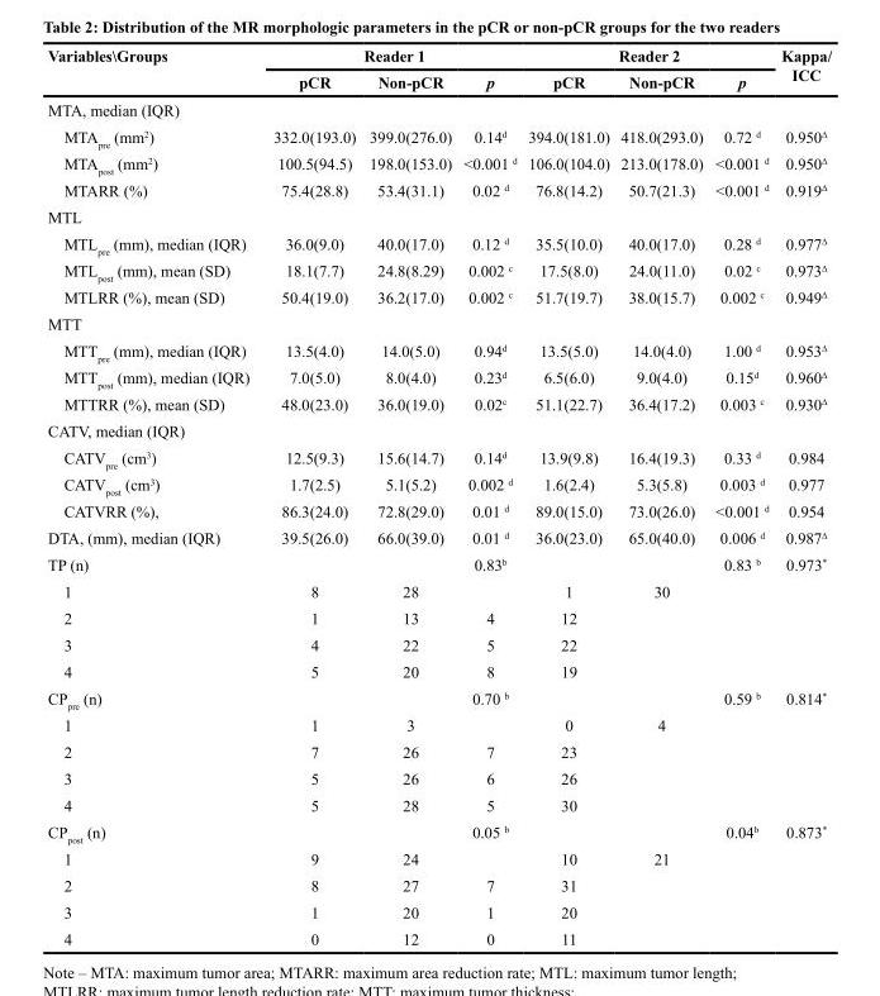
<table><thead><tr><td rowspan="2">Variables\Groups</td><td colspan="3">Reader 1</td><td colspan="3">Reader 2</td><td rowspan="2">Kappa/ ICC</td></tr><tr><td>pCR</td><td>Non-pCR</td><td>p</td><td>pCR</td><td>Non-pCR</td><td>p</td></tr></thead><tbody><tr><td colspan="8">MTA, median (IQR)</td></tr><tr><td>MTA<sub>pre</sub> (mm<sup>2</sup>)</td><td>332.0(193.0)</td><td>399.0(276.0)</td><td>0.14<sup>d</sup></td><td>394.0(181.0)</td><td>418.0(293.0)</td><td>0.72 <sup>d</sup></td><td>0.950∆</td></tr><tr><td>MTA<sub>post</sub> (mm<sup>2</sup>)</td><td>100.5(94.5)</td><td>198.0(153.0)</td><td>&lt;0.001 <sup>d</sup></td><td>106.0(104.0)</td><td>213.0(178.0)</td><td>&lt;0.001 <sup>d</sup></td><td>0.950∆</td></tr><tr><td>MTARR (%)</td><td>75.4(28.8)</td><td>53.4(31.1)</td><td>0.02 <sup>d</sup></td><td>76.8(14.2)</td><td>50.7(21.3)</td><td>&lt;0.001 <sup>d</sup></td><td>0.919∆</td></tr><tr><td colspan="8">MTL</td></tr><tr><td>MTL<sub>pre</sub> (mm), median (IQR)</td><td>36.0(9.0)</td><td>40.0(17.0)</td><td>0.12 <sup>d</sup></td><td>35.5(10.0)</td><td>40.0(17.0)</td><td>0.28 <sup>d</sup></td><td>0.977∆</td></tr><tr><td>MTL<sub>post</sub> (mm), mean (SD)</td><td>18.1(7.7)</td><td>24.8(8.29)</td><td>0.002 <sup>c</sup></td><td>17.5(8.0)</td><td>24.0(11.0)</td><td>0.02 <sup>c</sup></td><td>0.973∆</td></tr><tr><td>MTLRR (%), mean (SD)</td><td>50.4(19.0)</td><td>36.2(17.0)</td><td>0.002 <sup>c</sup></td><td>51.7(19.7)</td><td>38.0(15.7)</td><td>0.002 <sup>c</sup></td><td>0.949∆</td></tr><tr><td colspan="8">MTT</td></tr><tr><td>MTT<sub>pre</sub> (mm), median (IQR)</td><td>13.5(4.0)</td><td>14.0(5.0)</td><td>0.94<sup>d</sup></td><td>13.5(5.0)</td><td>14.0(4.0)</td><td>1.00 <sup>d</sup></td><td>0.953∆</td></tr><tr><td>MTT<sub>post</sub> (mm), median (IQR)</td><td>7.0(5.0)</td><td>8.0(4.0)</td><td>0.23<sup>d</sup></td><td>6.5(6.0)</td><td>9.0(4.0)</td><td>0.15<sup>d</sup></td><td>0.960∆</td></tr><tr><td>MTTRR (%), mean (SD)</td><td>48.0(23.0)</td><td>36.0(19.0)</td><td>0.02<sup>c</sup></td><td>51.1(22.7)</td><td>36.4(17.2)</td><td>0.003 <sup>c</sup></td><td>0.930∆</td></tr><tr><td colspan="8">CATV, median (IQR)</td></tr><tr><td>CATV<sub>pre</sub> (cm<sup>3</sup>)</td><td>12.5(9.3)</td><td>15.6(14.7)</td><td>0.14<sup>d</sup></td><td>13.9(9.8)</td><td>16.4(19.3)</td><td>0.33 <sup>d</sup></td><td>0.984</td></tr><tr><td>CATV<sub>post</sub> (cm<sup>3</sup>)</td><td>1.7(2.5)</td><td>5.1(5.2)</td><td>0.002 <sup>d</sup></td><td>1.6(2.4)</td><td>5.3(5.8)</td><td>0.003 <sup>d</sup></td><td>0.977</td></tr><tr><td>CATVRR (%),</td><td>86.3(24.0)</td><td>72.8(29.0)</td><td>0.01 <sup>d</sup></td><td>89.0(15.0)</td><td>73.0(26.0)</td><td>&lt;0.001 <sup>d</sup></td><td>0.954</td></tr><tr><td>DTA, (mm), median (IQR)</td><td>39.5(26.0)</td><td>66.0(39.0)</td><td>0.01 <sup>d</sup></td><td>36.0(23.0)</td><td>65.0(40.0)</td><td>0.006 <sup>d</sup></td><td>0.987∆</td></tr><tr><td>TP (n)</td><td></td><td></td><td>0.83<sup>b</sup></td><td></td><td></td><td>0.83 <sup>b</sup></td><td>0.973*</td></tr><tr><td>1</td><td>8</td><td>28</td><td></td><td>1</td><td>30</td><td></td><td></td></tr><tr><td>2</td><td>1</td><td>13</td><td>4</td><td>12</td><td></td><td></td><td></td></tr><tr><td>3</td><td>4</td><td>22</td><td>5</td><td>22</td><td></td><td></td><td></td></tr><tr><td>4</td><td>5</td><td>20</td><td>8</td><td>19</td><td></td><td></td><td></td></tr><tr><td>CP<sub>pre</sub> (n)</td><td></td><td></td><td>0.70 <sup>b</sup></td><td></td><td></td><td>0.59 <sup>b</sup></td><td>0.814*</td></tr><tr><td>1</td><td>1</td><td>3</td><td></td><td>0</td><td>4</td><td></td><td></td></tr><tr><td>2</td><td>7</td><td>26</td><td>7</td><td>23</td><td></td><td></td><td></td></tr><tr><td>3</td><td>5</td><td>26</td><td>6</td><td>26</td><td></td><td></td><td></td></tr><tr><td>4</td><td>5</td><td>28</td><td>5</td><td>30</td><td></td><td></td><td></td></tr><tr><td>CP<sub>post</sub> (n)</td><td></td><td></td><td>0.05 <sup>b</sup></td><td></td><td></td><td>0.04<sup>b</sup></td><td>0.873*</td></tr><tr><td>1</td><td>9</td><td>24</td><td></td><td>10</td><td>21</td><td></td><td></td></tr><tr><td>2</td><td>8</td><td>27</td><td>7</td><td>31</td><td></td><td></td><td></td></tr><tr><td>3</td><td>1</td><td>20</td><td>1</td><td>20</td><td></td><td></td><td></td></tr><tr><td>4</td><td>0</td><td>12</td><td>0</td><td>11</td><td></td><td></td><td></td></tr></tbody></table>